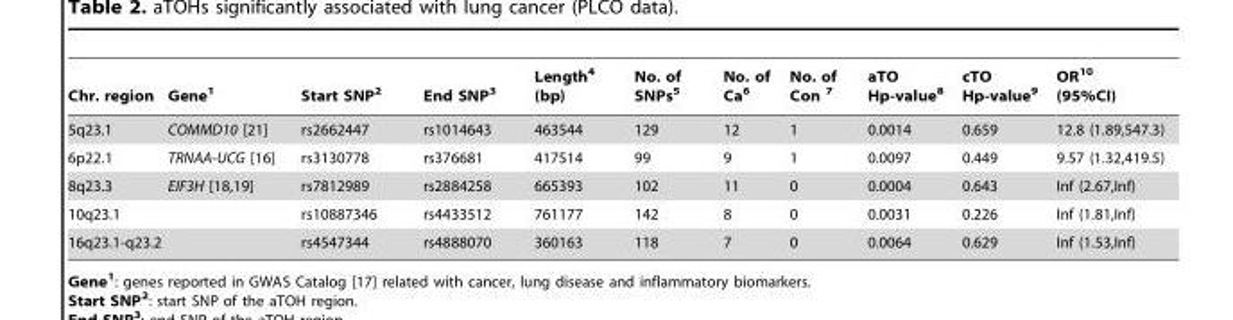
<table><thead><tr><td>Chr. region</td><td>Gene<sup>1</sup></td><td>Start SNP<sup>2</sup></td><td>End SNP<sup>3</sup></td><td>Length<sup>4</sup> (bp)</td><td>No. of SNPs<sup>5</sup></td><td>No. of Ca<sup>6</sup></td><td>No. of Con <sup>7</sup></td><td>aTO Hp-value<sup>8</sup></td><td>cTO Hp-value<sup>9</sup></td><td>OR<sup>10</sup> (95%CI)</td></tr></thead><tbody><tr><td>5q23.1</td><td>COMMD10 [21]</td><td>rs2662447</td><td>rs1014643</td><td>463544</td><td>129</td><td>12</td><td>1</td><td>0.0014</td><td>0.659</td><td>12.8 (1.89,547.3)</td></tr><tr><td>6p22.1</td><td>TRNAA-UCG [16]</td><td>rs3130778</td><td>rs376681</td><td>417514</td><td>99</td><td>9</td><td>1</td><td>0.0097</td><td>0.449</td><td>9.57 (1.32,419.5)</td></tr><tr><td>8q23.3</td><td>EIF3H [18,19]</td><td>rs7812989</td><td>rs2884258</td><td>665393</td><td>102</td><td>11</td><td>0</td><td>0.0004</td><td>0.643</td><td>Inf (2.67,Inf)</td></tr><tr><td>10q23.1</td><td></td><td>rs10887346</td><td>rs4433512</td><td>761177</td><td>142</td><td>8</td><td>0</td><td>0.0031</td><td>0.226</td><td>Inf (1.81,Inf)</td></tr><tr><td>16q23.1-q23.2</td><td></td><td>rs4547344</td><td>rs4888070</td><td>360163</td><td>118</td><td>7</td><td>0</td><td>0.0064</td><td>0.629</td><td>Inf (1.53,Inf)</td></tr></tbody></table>